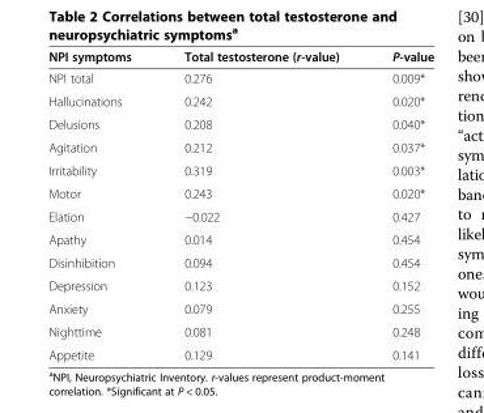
<table><thead><tr><td>NPI symptoms</td><td>Total testosterone (r-value)</td><td>P-value</td></tr></thead><tbody><tr><td>NPI total</td><td>0.276</td><td>0.009*</td></tr><tr><td>Hallucinations</td><td>0.242</td><td>0.020*</td></tr><tr><td>Delusions</td><td>0.208</td><td>0.040*</td></tr><tr><td>Agitation</td><td>0.212</td><td>0.037*</td></tr><tr><td>Irritability</td><td>0.319</td><td>0.003*</td></tr><tr><td>Motor</td><td>0.243</td><td>0.020*</td></tr><tr><td>Elation</td><td>−0.022</td><td>0.427</td></tr><tr><td>Apathy</td><td>0.014</td><td>0.454</td></tr><tr><td>Disinhibition</td><td>0.094</td><td>0.454</td></tr><tr><td>Depression</td><td>0.123</td><td>0.152</td></tr><tr><td>Anxiety</td><td>0.079</td><td>0.255</td></tr><tr><td>Nighttime</td><td>0.081</td><td>0.248</td></tr><tr><td>Appetite</td><td>0.129</td><td>0.141</td></tr></tbody></table>